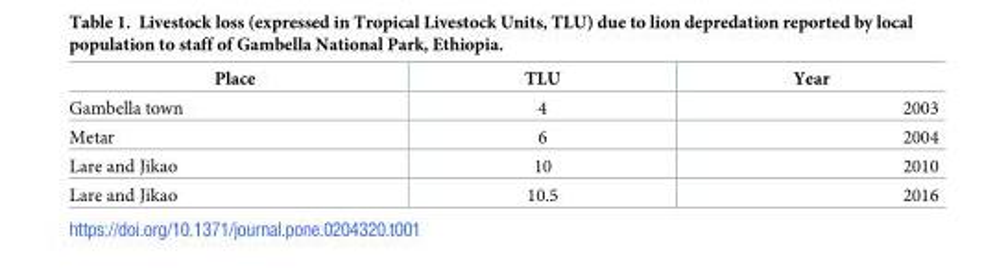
<table><thead><tr><td>Place</td><td>TLU</td><td>Year</td></tr></thead><tbody><tr><td>Gambella town</td><td>4</td><td>2003</td></tr><tr><td>Metar</td><td>6</td><td>2004</td></tr><tr><td>Lare and Jikao</td><td>10</td><td>2010</td></tr><tr><td>Lare and Jikao</td><td>10.5</td><td>2016</td></tr></tbody></table>